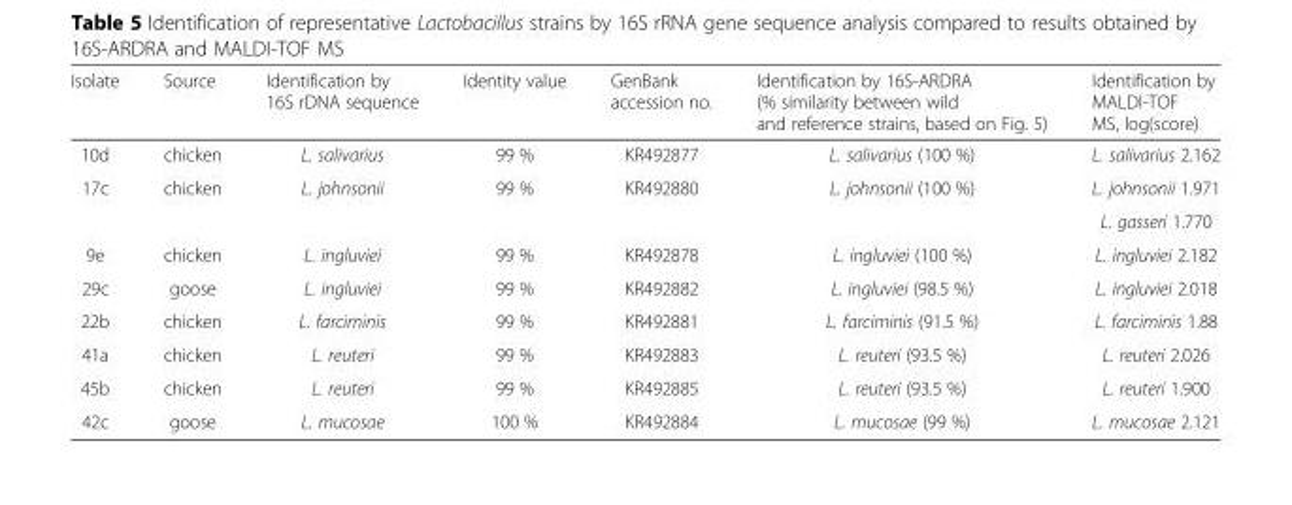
<table><thead><tr><td>Isolate</td><td>Source</td><td>Identification by 16S rDNA sequence</td><td>Identity value</td><td>GenBank accession no.</td><td>Identification by 16S-ARDRA (% similarity between wild and reference strains, based on Fig. 5)</td><td>Identification by MALDI-TOF MS, log(score)</td></tr></thead><tbody><tr><td>10d</td><td>chicken</td><td>L. salivarius</td><td>99 %</td><td>KR492877</td><td>L. salivarius (100 %)</td><td>L. salivarius 2.162</td></tr><tr><td rowspan="2">17c</td><td rowspan="2">chicken</td><td rowspan="2">L. johnsonii</td><td rowspan="2">99 %</td><td rowspan="2">KR492880</td><td rowspan="2">L. johnsonii (100 %)</td><td>L. johnsonii 1.971</td></tr><tr><td>L. gasseri 1.770</td></tr><tr><td>9e</td><td>chicken</td><td>L. ingluviei</td><td>99 %</td><td>KR492878</td><td>L. ingluviei (100 %)</td><td>L. ingluviei 2.182</td></tr><tr><td>29c</td><td>goose</td><td>L. ingluviei</td><td>99 %</td><td>KR492882</td><td>L. ingluviei (98.5 %)</td><td>L. ingluviei 2.018</td></tr><tr><td>22b</td><td>chicken</td><td>L. farciminis</td><td>99 %</td><td>KR492881</td><td>L. farciminis (91.5 %)</td><td>L. farciminis 1.88</td></tr><tr><td>41a</td><td>chicken</td><td>L. reuteri</td><td>99 %</td><td>KR492883</td><td>L. reuteri (93.5 %)</td><td>L. reuteri 2.026</td></tr><tr><td>45b</td><td>chicken</td><td>L. reuteri</td><td>99 %</td><td>KR492885</td><td>L. reuteri (93.5 %)</td><td>L. reuteri 1.900</td></tr><tr><td>42c</td><td>goose</td><td>L. mucosae</td><td>100 %</td><td>KR492884</td><td>L. mucosae (99 %)</td><td>L. mucosae 2.121</td></tr></tbody></table>